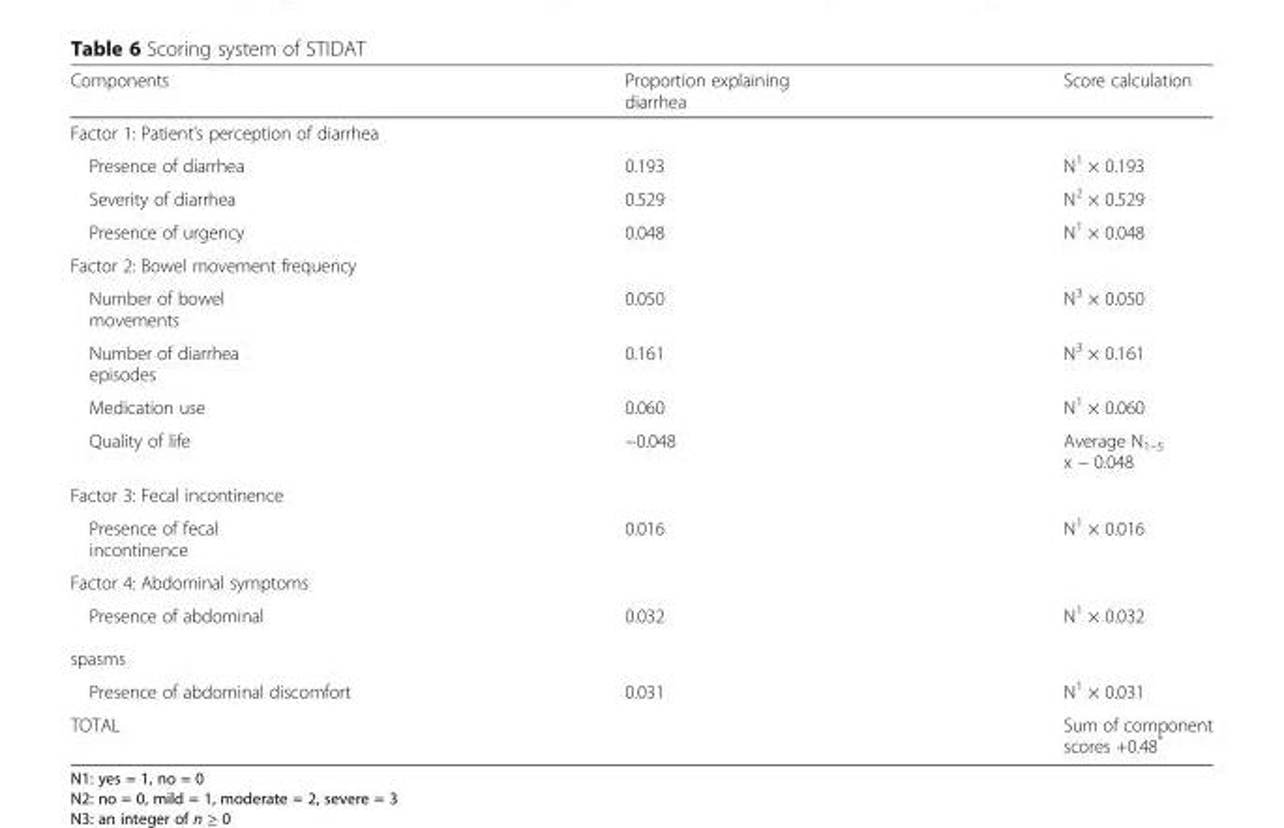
<table><thead><tr><td>Components</td><td>Proportion explaining diarrhea</td><td>Score calculation</td></tr></thead><tbody><tr><td colspan="3">Factor 1: Patient’s perception of diarrhea</td></tr><tr><td>Presence of diarrhea</td><td>0.193</td><td>N<sup>1</sup> × 0.193</td></tr><tr><td>Severity of diarrhea</td><td>0.529</td><td>N<sup>2</sup> × 0.529</td></tr><tr><td>Presence of urgency</td><td>0.048</td><td>N<sup>1</sup> × 0.048</td></tr><tr><td colspan="3">Factor 2: Bowel movement frequency</td></tr><tr><td>Number of bowel movements</td><td>0.050</td><td>N<sup>3</sup> × 0.050</td></tr><tr><td>Number of diarrhea episodes</td><td>0.161</td><td>N<sup>3</sup> × 0.161</td></tr><tr><td>Medication use</td><td>0.060</td><td>N<sup>1</sup> × 0.060</td></tr><tr><td>Quality of life</td><td>−0.048</td><td>Average N<sub>1–5</sub> x − 0.048</td></tr><tr><td colspan="3">Factor 3: Fecal incontinence</td></tr><tr><td>Presence of fecal incontinence</td><td>0.016</td><td>N<sup>1</sup> × 0.016</td></tr><tr><td colspan="3">Factor 4: Abdominal symptoms</td></tr><tr><td>Presence of abdominal spasms</td><td>0.032</td><td>N<sup>1</sup> × 0.032</td></tr><tr><td>Presence of abdominal discomfort</td><td>0.031</td><td>N<sup>1</sup> × 0.031</td></tr><tr><td>TOTAL</td><td></td><td>Sum of component scores +0.48*</td></tr></tbody></table>